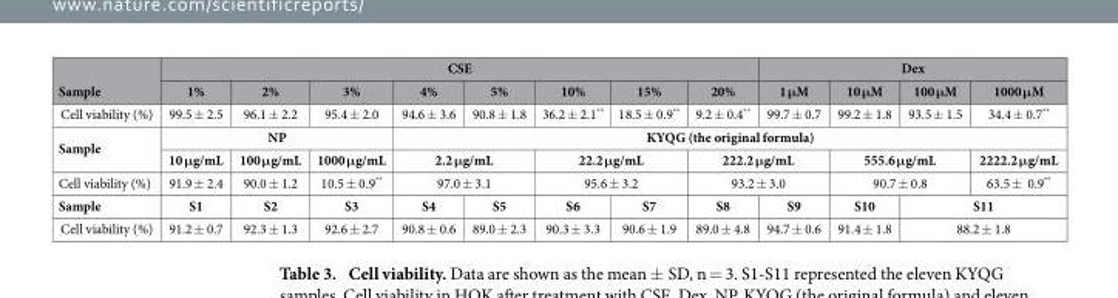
<table><thead><tr><td rowspan="2">Sample</td><td colspan="8">CSE</td><td colspan="4">Dex</td></tr><tr><td>1%</td><td>2%</td><td>3%</td><td>4%</td><td>5%</td><td>10%</td><td>15%</td><td>20%</td><td>1 μM</td><td>10 μM</td><td>100 μM</td><td>1000 μM</td></tr></thead><tbody><tr><td>Cell viability (%)</td><td>99.5 ± 2.5</td><td>96.1 ± 2.2</td><td>95.4 ± 2.0</td><td>94.6 ± 3.6</td><td>90.8 ± 1.8</td><td>36.2 ± 2.1**</td><td>18.5 ± 0.9**</td><td>9.2 ± 0.4**</td><td>99.7 ± 0.7</td><td>99.2 ± 1.8</td><td>93.5 ± 1.5</td><td>34.4 ± 0.7**</td></tr><tr><td rowspan="2">Sample</td><td colspan="3">NP</td><td colspan="9">KYQG (the original formula)</td></tr><tr><td>10 μg/mL</td><td>100 μg/mL</td><td>1000 μg/mL</td><td colspan="2">2.2 μg/mL</td><td colspan="2">22.2 μg/mL</td><td colspan="2">222.2 μg/mL</td><td colspan="2">555.6 μg/mL</td><td>2222.2 μg/mL</td></tr><tr><td>Cell viability (%)</td><td>91.9 ± 2.4</td><td>90.0 ± 1.2</td><td>10.5 ± 0.9**</td><td colspan="2">97.0 ± 3.1</td><td colspan="2">95.6 ± 3.2</td><td colspan="2">93.2 ± 3.0</td><td colspan="2">90.7 ± 0.8</td><td>63.5 ± 0.9**</td></tr><tr><td>Sample</td><td>S1</td><td>S2</td><td>S3</td><td>S4</td><td>S5</td><td>S6</td><td>S7</td><td>S8</td><td>S9</td><td>S10</td><td colspan="2">S11</td></tr><tr><td>Cell viability (%)</td><td>91.2 ± 0.7</td><td>92.3 ± 1.3</td><td>92.6 ± 2.7</td><td>90.8 ± 0.6</td><td>89.0 ± 2.3</td><td>90.3 ± 3.3</td><td>90.6 ± 1.9</td><td>89.0 ± 4.8</td><td>94.7 ± 0.6</td><td>91.4 ± 1.8</td><td colspan="2">88.2 ± 1.8</td></tr></tbody></table>